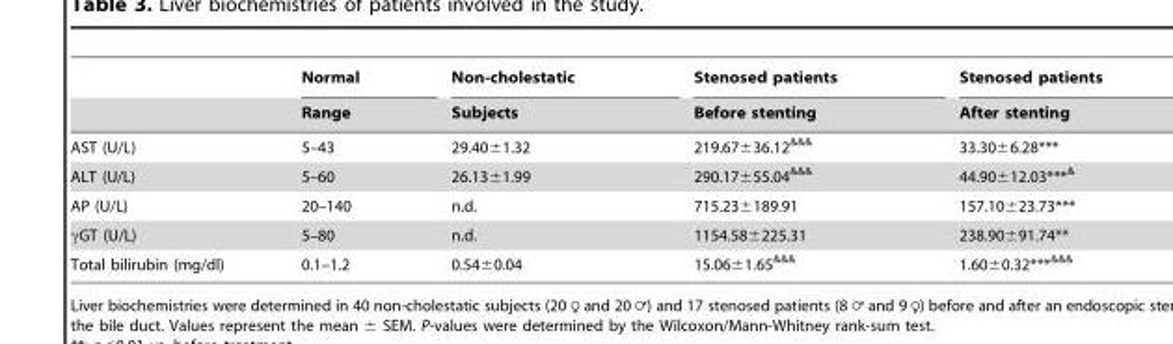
<table><thead><tr><td rowspan="2"></td><td rowspan="2">Normal Range</td><td rowspan="2">Non-cholestatic Subjects</td><td rowspan="2">Stenosed patients Before stenting</td><td rowspan="2">Stenosed patients After stenting</td></tr><tr></tr></thead><tbody><tr><td>AST (U/L)</td><td>5–43</td><td>29.40±1.32</td><td>219.67±36.12&amp;&amp;&amp;</td><td>33.30±6.28***</td></tr><tr><td>ALT (U/L)</td><td>5–60</td><td>26.13±1.99</td><td>290.17±55.04&amp;&amp;&amp;</td><td>44.90±12.03***&amp;</td></tr><tr><td>AP (U/L)</td><td>20–140</td><td>n.d.</td><td>715.23±189.91</td><td>157.10±23.73***</td></tr><tr><td>γGT (U/L)</td><td>5–80</td><td>n.d.</td><td>1154.58±225.31</td><td>238.90±91.74**</td></tr><tr><td>Total bilirubin (mg/dl)</td><td>0.1–1.2</td><td>0.54±0.04</td><td>15.06±1.65&amp;&amp;&amp;</td><td>1.60±0.32***&amp;&amp;&amp;</td></tr></tbody></table>